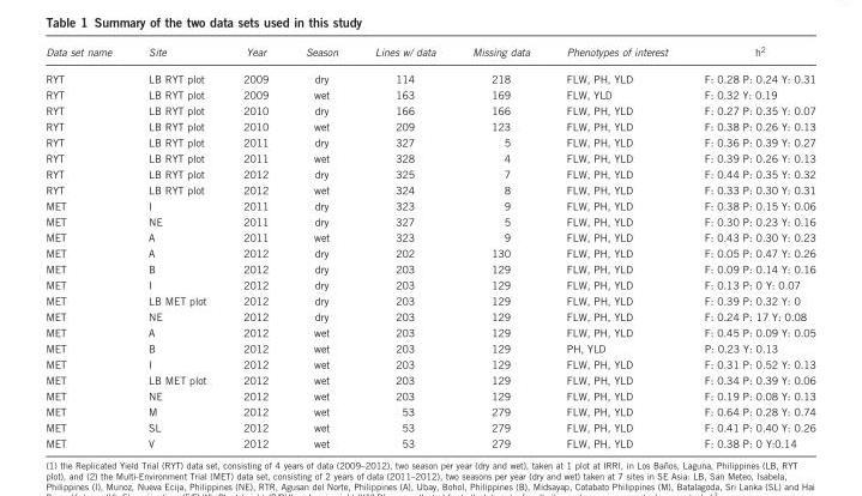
<table><thead><tr><td>Data set name</td><td>Site</td><td>Year</td><td>Season</td><td>Lines w/ data</td><td>Missing data</td><td>Phenotypes of interest</td><td>h<sup>2</sup></td></tr></thead><tbody><tr><td>RYT</td><td>LB RYT plot</td><td>2009</td><td>dry</td><td>114</td><td>218</td><td>FLW, PH, YLD</td><td>F: 0.28 P: 0.24 Y: 0.31</td></tr><tr><td>RYT</td><td>LB RYT plot</td><td>2009</td><td>wet</td><td>163</td><td>169</td><td>FLW, YLD</td><td>F: 0.32 Y: 0.19</td></tr><tr><td>RYT</td><td>LB RYT plot</td><td>2010</td><td>dry</td><td>166</td><td>166</td><td>FLW, PH, YLD</td><td>F: 0.27 P: 0.35 Y: 0.07</td></tr><tr><td>RYT</td><td>LB RYT plot</td><td>2010</td><td>wet</td><td>209</td><td>123</td><td>FLW, PH, YLD</td><td>F: 0.38 P: 0.26 Y: 0.13</td></tr><tr><td>RYT</td><td>LB RYT plot</td><td>2011</td><td>dry</td><td>327</td><td>5</td><td>FLW, PH, YLD</td><td>F: 0.36 P: 0.39 Y: 0.27</td></tr><tr><td>RYT</td><td>LB RYT plot</td><td>2011</td><td>wet</td><td>328</td><td>4</td><td>FLW, PH, YLD</td><td>F: 0.39 P: 0.26 Y: 0.13</td></tr><tr><td>RYT</td><td>LB RYT plot</td><td>2012</td><td>dry</td><td>325</td><td>7</td><td>FLW, PH, YLD</td><td>F: 0.44 P: 0.35 Y: 0.32</td></tr><tr><td>RYT</td><td>LB RYT plot</td><td>2012</td><td>wet</td><td>324</td><td>8</td><td>FLW, PH, YLD</td><td>F: 0.33 P: 0.30 Y: 0.31</td></tr><tr><td>MET</td><td>I</td><td>2011</td><td>dry</td><td>323</td><td>9</td><td>FLW, PH, YLD</td><td>F: 0.38 P: 0.15 Y: 0.06</td></tr><tr><td>MET</td><td>NE</td><td>2011</td><td>dry</td><td>327</td><td>5</td><td>FLW, PH, YLD</td><td>F: 0.30 P: 0.23 Y: 0.16</td></tr><tr><td>MET</td><td>A</td><td>2011</td><td>wet</td><td>323</td><td>9</td><td>FLW, PH, YLD</td><td>F: 0.43 P: 0.30 Y: 0.23</td></tr><tr><td>MET</td><td>A</td><td>2012</td><td>dry</td><td>202</td><td>130</td><td>FLW, PH, YLD</td><td>F: 0.05 P: 0.47 Y: 0.26</td></tr><tr><td>MET</td><td>B</td><td>2012</td><td>dry</td><td>203</td><td>129</td><td>FLW, PH, YLD</td><td>F: 0.09 P: 0.14 Y: 0.16</td></tr><tr><td>MET</td><td>I</td><td>2012</td><td>dry</td><td>203</td><td>129</td><td>FLW, PH, YLD</td><td>F: 0.13 P: 0 Y: 0.07</td></tr><tr><td>MET</td><td>LB MET plot</td><td>2012</td><td>dry</td><td>203</td><td>129</td><td>FLW, PH, YLD</td><td>F: 0.39 P: 0.32 Y: 0</td></tr><tr><td>MET</td><td>NE</td><td>2012</td><td>dry</td><td>203</td><td>129</td><td>FLW, PH, YLD</td><td>F: 0.24 P: 17 Y: 0.08</td></tr><tr><td>MET</td><td>A</td><td>2012</td><td>wet</td><td>203</td><td>129</td><td>FLW, PH, YLD</td><td>F: 0.45 P: 0.09 Y: 0.05</td></tr><tr><td>MET</td><td>B</td><td>2012</td><td>wet</td><td>203</td><td>129</td><td>PH, YLD</td><td>P: 0.23 Y: 0.13</td></tr><tr><td>MET</td><td>I</td><td>2012</td><td>wet</td><td>203</td><td>129</td><td>FLW, PH, YLD</td><td>F: 0.31 P: 0.52 Y: 0.13</td></tr><tr><td>MET</td><td>LB MET plot</td><td>2012</td><td>wet</td><td>203</td><td>129</td><td>FLW, PH, YLD</td><td>F: 0.34 P: 0.39 Y: 0.06</td></tr><tr><td>MET</td><td>NE</td><td>2012</td><td>wet</td><td>203</td><td>129</td><td>FLW, PH, YLD</td><td>F: 0.19 P: 0.08 Y: 0.13</td></tr><tr><td>MET</td><td>M</td><td>2012</td><td>wet</td><td>53</td><td>279</td><td>FLW, PH, YLD</td><td>F: 0.64 P: 0.28 Y: 0.74</td></tr><tr><td>MET</td><td>SL</td><td>2012</td><td>wet</td><td>53</td><td>279</td><td>FLW, PH, YLD</td><td>F: 0.41 P: 0.40 Y: 0.26</td></tr><tr><td>MET</td><td>V</td><td>2012</td><td>wet</td><td>53</td><td>279</td><td>FLW, PH, YLD</td><td>F: 0.38 P: 0 Y:0.14</td></tr></tbody></table>